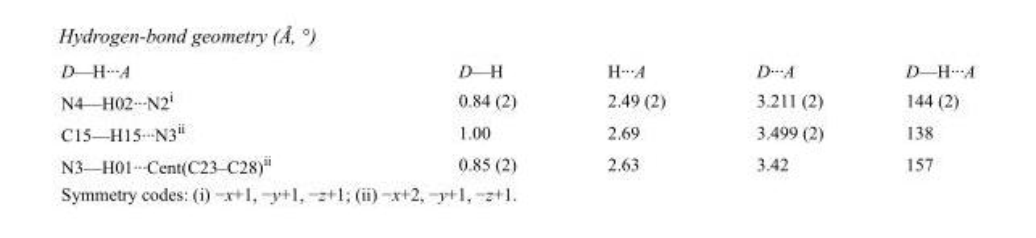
<table><tbody><tr><td>D—H···A</td><td>D—H</td><td>H···A</td><td>D···A</td><td>D—H···A</td></tr><tr><td>N4—H02···N2<sup>i</sup></td><td>0.84 (2)</td><td>2.49 (2)</td><td>3.211 (2)</td><td>144 (2)</td></tr><tr><td>C15—H15···N3<sup>ii</sup></td><td>1.00</td><td>2.69</td><td>3.499 (2)</td><td>138</td></tr><tr><td>N3—H01···Cent(C23–C28)<sup>ii</sup></td><td>0.85 (2)</td><td>2.63</td><td>3.42</td><td>157</td></tr></tbody></table>